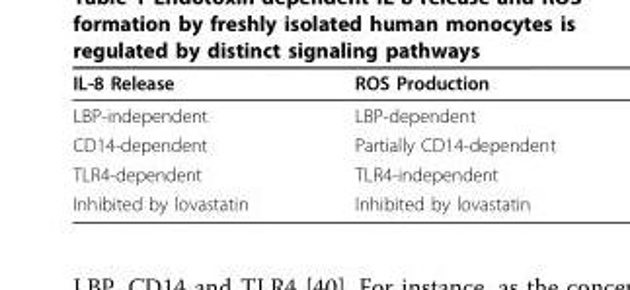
<table><thead><tr><td>IL-8 Release</td><td>ROS Production</td></tr></thead><tbody><tr><td>LBP-independent</td><td>LBP-dependent</td></tr><tr><td>CD14-dependent</td><td>Partially CD14-dependent</td></tr><tr><td>TLR4-dependent</td><td>TLR4-independent</td></tr><tr><td>Inhibited by lovastatin</td><td>Inhibited by lovastatin</td></tr></tbody></table>